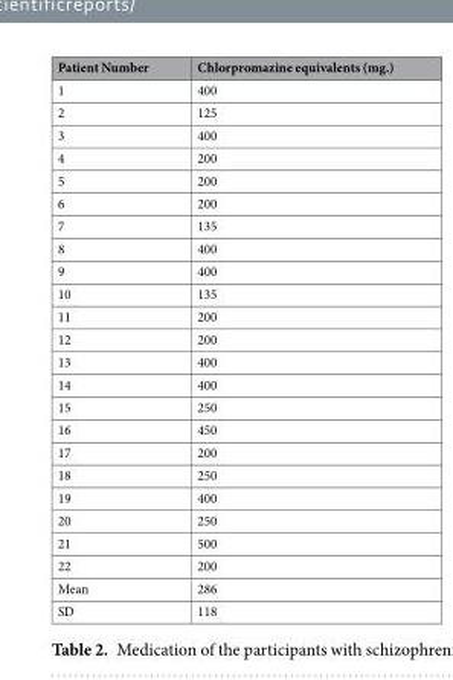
<table><thead><tr><td>Patient Number</td><td>Chlorpromazine equivalents (mg.)</td></tr></thead><tbody><tr><td>1</td><td>400</td></tr><tr><td>2</td><td>125</td></tr><tr><td>3</td><td>400</td></tr><tr><td>4</td><td>200</td></tr><tr><td>5</td><td>200</td></tr><tr><td>6</td><td>200</td></tr><tr><td>7</td><td>135</td></tr><tr><td>8</td><td>400</td></tr><tr><td>9</td><td>400</td></tr><tr><td>10</td><td>135</td></tr><tr><td>11</td><td>200</td></tr><tr><td>12</td><td>200</td></tr><tr><td>13</td><td>400</td></tr><tr><td>14</td><td>400</td></tr><tr><td>15</td><td>250</td></tr><tr><td>16</td><td>450</td></tr><tr><td>17</td><td>200</td></tr><tr><td>18</td><td>250</td></tr><tr><td>19</td><td>400</td></tr><tr><td>20</td><td>250</td></tr><tr><td>21</td><td>500</td></tr><tr><td>22</td><td>200</td></tr><tr><td>Mean</td><td>286</td></tr><tr><td>SD</td><td>118</td></tr></tbody></table>